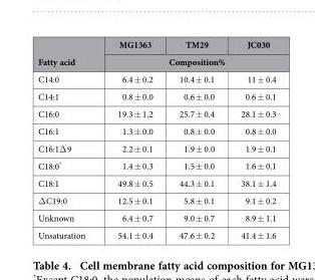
<table><thead><tr><td rowspan="2">Fatty acid</td><td>MG1363</td><td>TM29</td><td>JC030</td></tr><tr><td colspan="3">Composition%</td></tr></thead><tbody><tr><td>C14:0</td><td>6.4 ± 0.2</td><td>10.4 ± 0.1</td><td>11 ± 0.4</td></tr><tr><td>C14:1</td><td>0.8 ± 0.0</td><td>0.6 ± 0.0</td><td>0.6 ± 0.1</td></tr><tr><td>C16:0</td><td>19.3 ± 1.2</td><td>25.7 ± 0.4</td><td>28.1 ± 0.3</td></tr><tr><td>C16:1</td><td>1.3 ± 0.0</td><td>0.8 ± 0.0</td><td>0.8 ± 0.0</td></tr><tr><td>C16:1Δ 9</td><td>2.2 ± 0.1</td><td>1.9 ± 0.0</td><td>1.9 ± 0.1</td></tr><tr><td>C18:0*</td><td>1.4 ± 0.3</td><td>1.5 ± 0.0</td><td>1.6 ± 0.1</td></tr><tr><td>C18:1</td><td>49.8 ± 0.5</td><td>44.3 ± 0.1</td><td>38.1 ± 1.4</td></tr><tr><td>Δ C19:0</td><td>12.5 ± 0.1</td><td>5.8 ± 0.1</td><td>9.1 ± 0.2</td></tr><tr><td>Unknown</td><td>6.4 ± 0.7</td><td>9.0 ± 0.7</td><td>8.9 ± 1.1</td></tr><tr><td>Unsaturation</td><td>54.1 ± 0.4</td><td>47.6 ± 0.2</td><td>41.4 ± 1.6</td></tr></tbody></table>